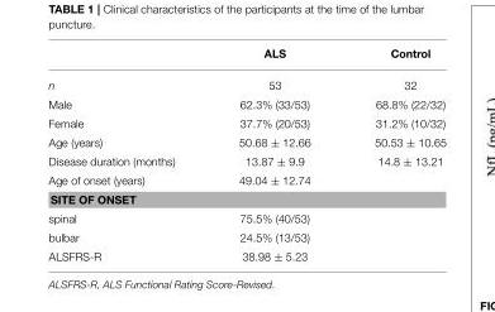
<table><thead><tr><td></td><td>ALS</td><td>Control</td></tr></thead><tbody><tr><td>n</td><td>53</td><td>32</td></tr><tr><td>Male</td><td>62.3% (33/53)</td><td>68.8% (22/32)</td></tr><tr><td>Female</td><td>37.7% (20/53)</td><td>31.2% (10/32)</td></tr><tr><td>Age (years)</td><td>50.68 ± 12.66</td><td>50.53 ± 10.65</td></tr><tr><td>Disease duration (months)</td><td>13.87 ± 9.9</td><td>14.8 ± 13.21</td></tr><tr><td>Age of onset (years)</td><td>49.04 ± 12.74</td><td></td></tr><tr><td colspan="3">SITE OF ONSET</td></tr><tr><td>spinal</td><td>75.5% (40/53)</td><td></td></tr><tr><td>bulbar</td><td>24.5% (13/53)</td><td></td></tr><tr><td>ALSFRS-R</td><td>38.98 ± 5.23</td><td></td></tr></tbody></table>